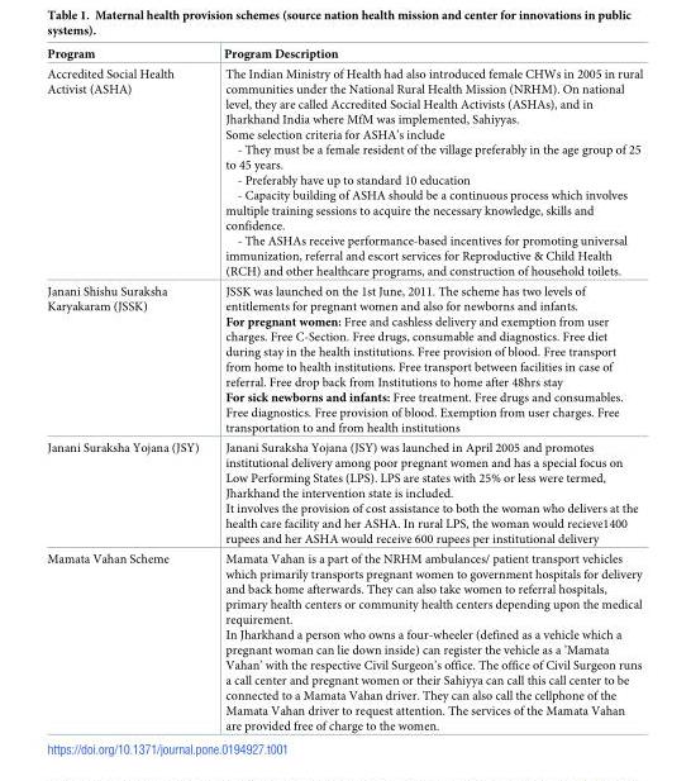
<table><thead><tr><td>Program</td><td>Program Description</td></tr></thead><tbody><tr><td>Accredited Social Health Activist (ASHA)</td><td>The Indian Ministry of Health had also introduced female CHWs in 2005 in rural communities under the National Rural Health Mission (NRHM). On national level, they are called Accredited Social Health Activists (ASHAs), and in Jharkhand India where MfM was implemented, Sahiyyas. Some selection criteria for ASHA’s include - They must be a female resident of the village preferably in the age group of 25 to 45 years. - Preferably have up to standard 10 education - Capacity building of ASHA should be a continuous process which involves multiple training sessions to acquire the necessary knowledge, skills and confidence. - The ASHAs receive performance-based incentives for promoting universal immunization, referral and escort services for Reproductive &amp; Child Health (RCH) and other healthcare programs, and construction of household toilets.</td></tr><tr><td>Janani Shishu Suraksha Karyakaram (JSSK)</td><td>JSSK was launched on the 1st June, 2011. The scheme has two levels of entitlements for pregnant women and also for newborns and infants. For pregnant women: Free and cashless delivery and exemption from user charges. Free C-Section. Free drugs, consumable and diagnostics. Free diet during stay in the health institutions. Free provision of blood. Free transport from home to health institutions. Free transport between facilities in case of referral. Free drop back from Institutions to home after 48hrs stay For sick newborns and infants: Free treatment. Free drugs and consumables. Free diagnostics. Free provision of blood. Exemption from user charges. Free transportation to and from health institutions</td></tr><tr><td>Janani Suraksha Yojana (JSY)</td><td>Janani Suraksha Yojana (JSY) was launched in April 2005 and promotes institutional delivery among poor pregnant women and has a special focus on Low Performing States (LPS). LPS are states with 25% or less were termed, Jharkhand the intervention state is included. It involves the provision of cost assistance to both the woman who delivers at the health care facility and her ASHA. In rural LPS, the woman would recieve1400 rupees and her ASHA would receive 600 rupees per institutional delivery</td></tr><tr><td>Mamata Vahan Scheme</td><td>Mamata Vahan is a part of the NRHM ambulances/ patient transport vehicles which primarily transports pregnant women to government hospitals for delivery and back home afterwards. They can also take women to referral hospitals, primary health centers or community health centers depending upon the medical requirement. In Jharkhand a person who owns a four-wheeler (defined as a vehicle which a pregnant woman can lie down inside) can register the vehicle as a ’Mamata Vahan’ with the respective Civil Surgeon’s office. The office of Civil Surgeon runs a call center and pregnant women or their Sahiyya can call this call center to be connected to a Mamata Vahan driver. They can also call the cellphone of the Mamata Vahan driver to request attention. The services of the Mamata Vahan are provided free of charge to the women.</td></tr></tbody></table>